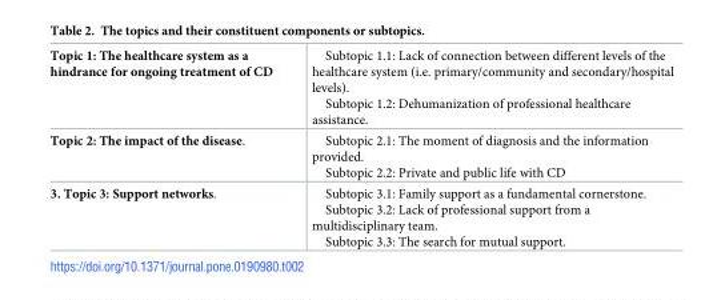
<table><tbody><tr><td>Topic 1: The healthcare system as a hindrance for ongoing treatment of CD</td><td>Subtopic 1.1: Lack of connection between different levels of the healthcare system (i.e. primary/community and secondary/hospital levels). Subtopic 1.2: Dehumanization of professional healthcare assistance.</td></tr><tr><td>Topic 2: The impact of the disease.</td><td>Subtopic 2.1: The moment of diagnosis and the information provided. Subtopic 2.2: Private and public life with CD</td></tr><tr><td>3. Topic 3: Support networks.</td><td>Subtopic 3.1: Family support as a fundamental cornerstone. Subtopic 3.2: Lack of professional support from a multidisciplinary team. Subtopic 3.3: The search for mutual support.</td></tr></tbody></table>